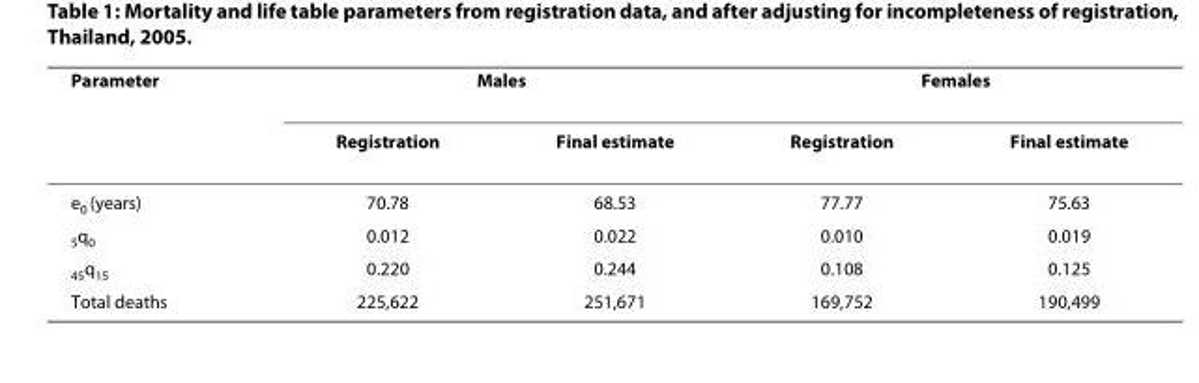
<table><thead><tr><td rowspan="2">Parameter</td><td colspan="2">Males</td><td colspan="2">Females</td></tr><tr><td>Registration</td><td>Final estimate</td><td>Registration</td><td>Final estimate</td></tr></thead><tbody><tr><td>e<sub>0</sub> (years)</td><td>70.78</td><td>68.53</td><td>77.77</td><td>75.63</td></tr><tr><td><sub>5</sub>q<sub>0</sub></td><td>0.012</td><td>0.022</td><td>0.010</td><td>0.019</td></tr><tr><td><sub>45</sub>q<sub>15</sub></td><td>0.220</td><td>0.244</td><td>0.108</td><td>0.125</td></tr><tr><td>Total deaths</td><td>225,622</td><td>251,671</td><td>169,752</td><td>190,499</td></tr></tbody></table>